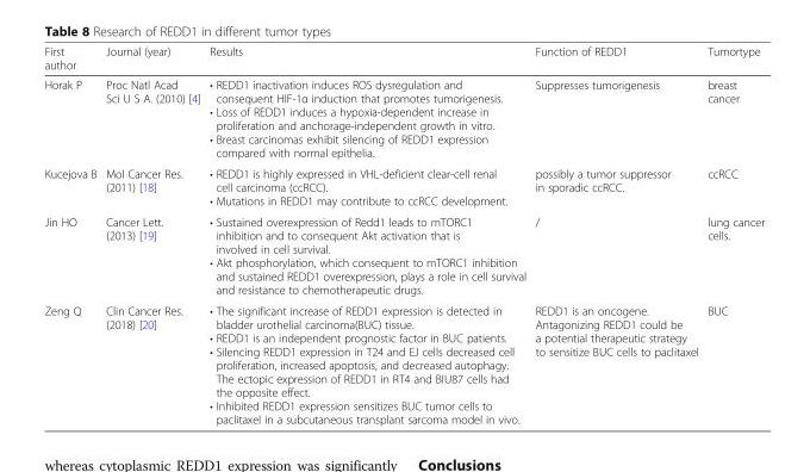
<table><thead><tr><td>First author</td><td>Journal (year)</td><td>Results</td><td>Function of REDD1</td><td>Tumortype</td></tr></thead><tbody><tr><td>Horak P</td><td>Proc Natl Acad Sci U S A. (2010) [4]</td><td>• REDD1 inactivation induces ROS dysregulation and consequent HIF-1α induction that promotes tumorigenesis. • Loss of REDD1 induces a hypoxia-dependent increase in proliferation and anchorage-independent growth in vitro. • Breast carcinomas exhibit silencing of REDD1 expression compared with normal epithelia.</td><td>Suppresses tumorigenesis</td><td>breast cancer</td></tr><tr><td>Kucejova B</td><td>Mol Cancer Res. (2011) [18]</td><td>• REDD1 is highly expressed in VHL-deficient clear-cell renal cell carcinoma (ccRCC). • Mutations in REDD1 may contribute to ccRCC development.</td><td>possibly a tumor suppressor in sporadic ccRCC.</td><td>ccRCC</td></tr><tr><td>Jin HO</td><td>Cancer Lett. (2013) [19]</td><td>• Sustained overexpression of Redd1 leads to mTORC1 inhibition and to consequent Akt activation that is involved in cell survival. • Akt phosphorylation, which consequent to mTORC1 inhibition and sustained REDD1 overexpression, plays a role in cell survival and resistance to chemotherapeutic drugs.</td><td>/</td><td>lung cancer cells.</td></tr><tr><td>Zeng Q</td><td>Clin Cancer Res. (2018) [20]</td><td>• The significant increase of REDD1 expression is detected in bladder urothelial carcinoma(BUC) tissue. • REDD1 is an independent prognostic factor in BUC patients. • Silencing REDD1 expression in T24 and EJ cells decreased cell proliferation, increased apoptosis, and decreased autophagy. The ectopic expression of REDD1 in RT4 and BIU87 cells had the opposite effect. • Inhibited REDD1 expression sensitizes BUC tumor cells to paclitaxel in a subcutaneous transplant sarcoma model in vivo.</td><td>REDD1 is an oncogene. Antagonizing REDD1 could be a potential therapeutic strategy to sensitize BUC cells to paclitaxel</td><td>BUC</td></tr></tbody></table>